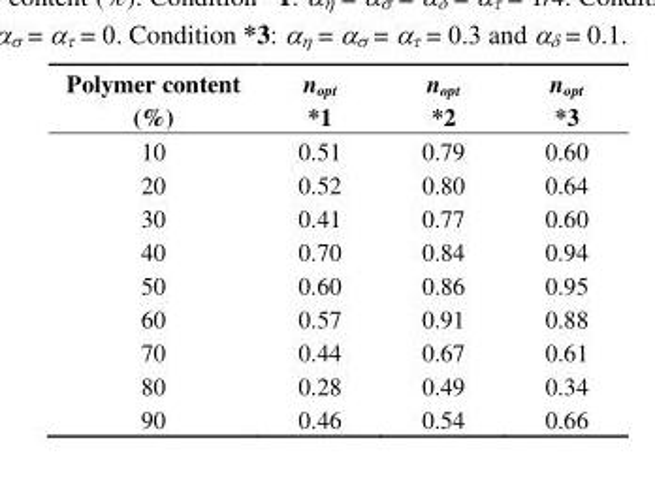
<table><thead><tr><td>Polymer content (%)</td><td>n<sub>opt</sub> *1</td><td>n<sub>opt</sub> *2</td><td>n<sub>opt</sub> *3</td></tr></thead><tbody><tr><td>10</td><td>0.51</td><td>0.79</td><td>0.60</td></tr><tr><td>20</td><td>0.52</td><td>0.80</td><td>0.64</td></tr><tr><td>30</td><td>0.41</td><td>0.77</td><td>0.60</td></tr><tr><td>40</td><td>0.70</td><td>0.84</td><td>0.94</td></tr><tr><td>50</td><td>0.60</td><td>0.86</td><td>0.95</td></tr><tr><td>60</td><td>0.57</td><td>0.91</td><td>0.88</td></tr><tr><td>70</td><td>0.44</td><td>0.67</td><td>0.61</td></tr><tr><td>80</td><td>0.28</td><td>0.49</td><td>0.34</td></tr><tr><td>90</td><td>0.46</td><td>0.54</td><td>0.66</td></tr></tbody></table>